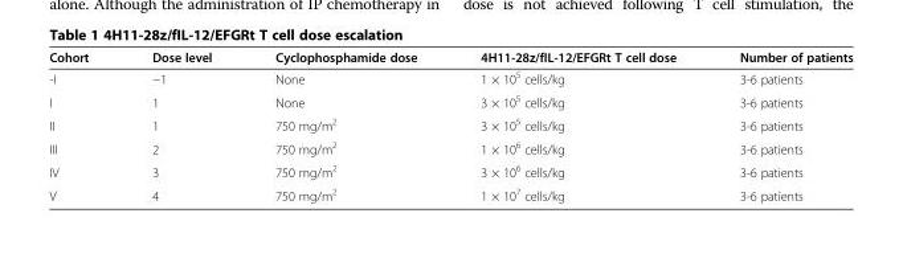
<table><thead><tr><td>Cohort</td><td>Dose level</td><td>Cyclophosphamide dose</td><td>4H11-28z/fIL-12/EFGRt T cell dose</td><td>Number of patients</td></tr></thead><tbody><tr><td>-I</td><td>−1</td><td>None</td><td>1 × 10<sup>5</sup> cells/kg</td><td>3-6 patients</td></tr><tr><td>I</td><td>1</td><td>None</td><td>3 × 10<sup>5</sup> cells/kg</td><td>3-6 patients</td></tr><tr><td>II</td><td>1</td><td>750 mg/m<sup>2</sup></td><td>3 × 10<sup>5</sup> cells/kg</td><td>3-6 patients</td></tr><tr><td>III</td><td>2</td><td>750 mg/m<sup>2</sup></td><td>1 × 10<sup>6</sup> cells/kg</td><td>3-6 patients</td></tr><tr><td>IV</td><td>3</td><td>750 mg/m<sup>2</sup></td><td>3 × 10<sup>6</sup> cells/kg</td><td>3-6 patients</td></tr><tr><td>V</td><td>4</td><td>750 mg/m<sup>2</sup></td><td>1 × 10<sup>7</sup> cells/kg</td><td>3-6 patients</td></tr></tbody></table>